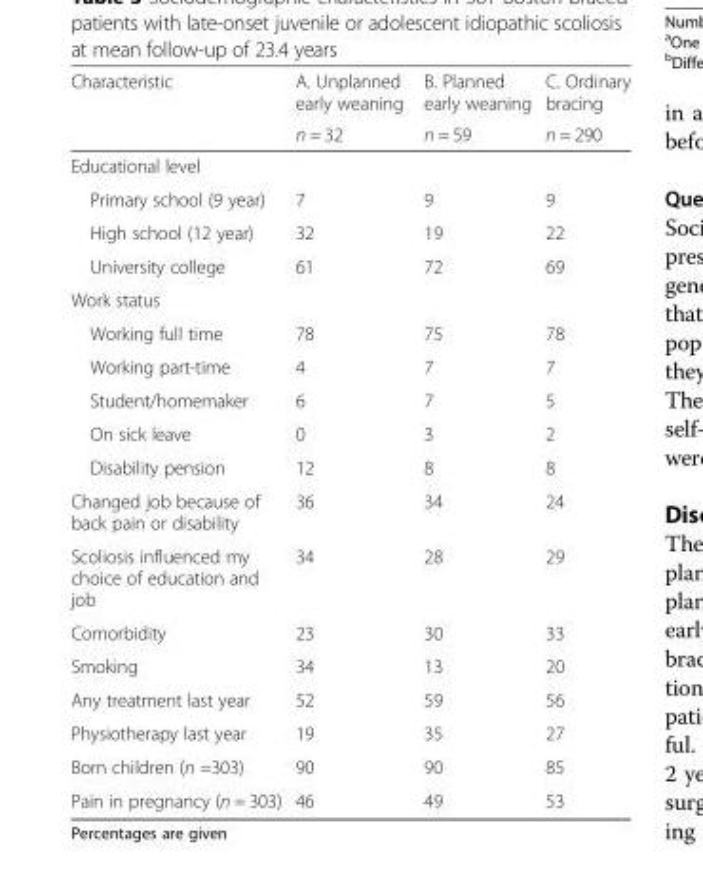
<table><thead><tr><td rowspan="2">Characteristic</td><td rowspan="2">A. Unplanned early weaning n = 32</td><td rowspan="2">B. Planned early weaning n = 59</td><td rowspan="2">C. Ordinary bracing n = 290</td></tr><tr></tr></thead><tbody><tr><td colspan="4">Educational level</td></tr><tr><td>Primary school (9 year)</td><td>7</td><td>9</td><td>9</td></tr><tr><td>High school (12 year)</td><td>32</td><td>19</td><td>22</td></tr><tr><td>University college</td><td>61</td><td>72</td><td>69</td></tr><tr><td colspan="4">Work status</td></tr><tr><td>Working full time</td><td>78</td><td>75</td><td>78</td></tr><tr><td>Working part-time</td><td>4</td><td>7</td><td>7</td></tr><tr><td>Student/homemaker</td><td>6</td><td>7</td><td>5</td></tr><tr><td>On sick leave</td><td>0</td><td>3</td><td>2</td></tr><tr><td>Disability pension</td><td>12</td><td>8</td><td>8</td></tr><tr><td>Changed job because of back pain or disability</td><td>36</td><td>34</td><td>24</td></tr><tr><td>Scoliosis influenced my choice of education and job</td><td>34</td><td>28</td><td>29</td></tr><tr><td>Comorbidity</td><td>23</td><td>30</td><td>33</td></tr><tr><td>Smoking</td><td>34</td><td>13</td><td>20</td></tr><tr><td>Any treatment last year</td><td>52</td><td>59</td><td>56</td></tr><tr><td>Physiotherapy last year</td><td>19</td><td>35</td><td>27</td></tr><tr><td>Born children (n =303)</td><td>90</td><td>90</td><td>85</td></tr><tr><td>Pain in pregnancy (n = 303)</td><td>46</td><td>49</td><td>53</td></tr></tbody></table>